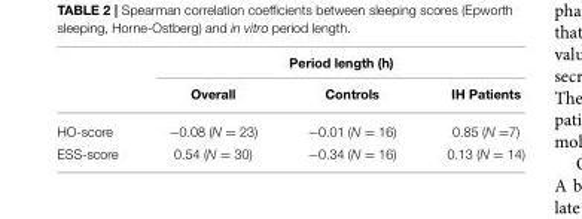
<table><thead><tr><td rowspan="2"></td><td colspan="3">Period length (h)</td></tr><tr><td>Overall</td><td>Controls</td><td>IH Patients</td></tr></thead><tbody><tr><td>HO-score</td><td>−0.08 (N = 23)</td><td>−0.01 (N = 16)</td><td>0.85 (N =7)</td></tr><tr><td>ESS-score</td><td>0.54 (N = 30)</td><td>−0.34 (N = 16)</td><td>0.13 (N = 14)</td></tr></tbody></table>